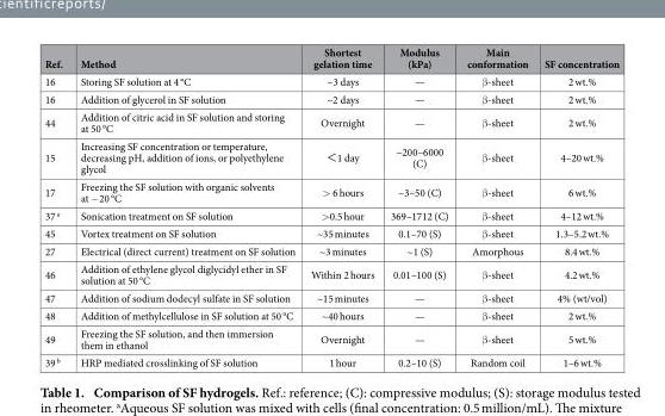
<table><thead><tr><td>Ref.</td><td>Method</td><td>Shortest gelation time</td><td>Modulus (kPa)</td><td>Main conformation</td><td>SF concentration</td></tr></thead><tbody><tr><td>16</td><td>Storing SF solution at 4 °C</td><td>~3 days</td><td>—</td><td>β -sheet</td><td>2 wt.%</td></tr><tr><td>16</td><td>Addition of glycerol in SF solution</td><td>~2 days</td><td>—</td><td>β -sheet</td><td>2 wt.%</td></tr><tr><td>44</td><td>Addition of citric acid in SF solution and storing at 50 °C</td><td>Overnight</td><td>—</td><td>β -sheet</td><td>2 wt.%</td></tr><tr><td>15</td><td>Increasing SF concentration or temperature, decreasing pH, addition of ions, or polyethylene glycol</td><td>＜ 1 day</td><td>~200–6000 (C)</td><td>β -sheet</td><td>4–20 wt.%</td></tr><tr><td>17</td><td>Freezing the SF solution with organic solvents at − 20 °C</td><td>&gt; 6 hours</td><td>~3–50 (C)</td><td>β -sheet</td><td>6 wt.%</td></tr><tr><td>37 a</td><td>Sonication treatment on SF solution</td><td>&gt;0.5 hour</td><td>369–1712 (C)</td><td>β -sheet</td><td>4–12 wt.%</td></tr><tr><td>45</td><td>Vortex treatment on SF solution</td><td>~35 minutes</td><td>0.1–70 (S)</td><td>β -sheet</td><td>1.3–5.2 wt.%</td></tr><tr><td>27</td><td>Electrical (direct current) treatment on SF solution</td><td>~3 minutes</td><td>~1 (S)</td><td>Amorphous</td><td>8.4 wt.%</td></tr><tr><td>46</td><td>Addition of ethylene glycol diglycidyl ether in SF solution at 50 °C</td><td>Within 2 hours</td><td>0.01–100 (S)</td><td>β -sheet</td><td>4.2 wt.%</td></tr><tr><td>47</td><td>Addition of sodium dodecyl sulfate in SF solution</td><td>~15 minutes</td><td>—</td><td>β -sheet</td><td>4% (wt/vol)</td></tr><tr><td>48</td><td>Addition of methylcellulose in SF solution at 50 °C</td><td>~40 hours</td><td>—</td><td>β -sheet</td><td>2 wt.%</td></tr><tr><td>49</td><td>Freezing the SF solution, and then immersion them in ethanol</td><td>Overnight</td><td>—</td><td>β -sheet</td><td>5 wt.%</td></tr><tr><td>39 b</td><td>HRP mediated crosslinking of SF solution</td><td>1 hour</td><td>0.2–10 (S)</td><td>Random coil</td><td>1–6 wt.%</td></tr></tbody></table>